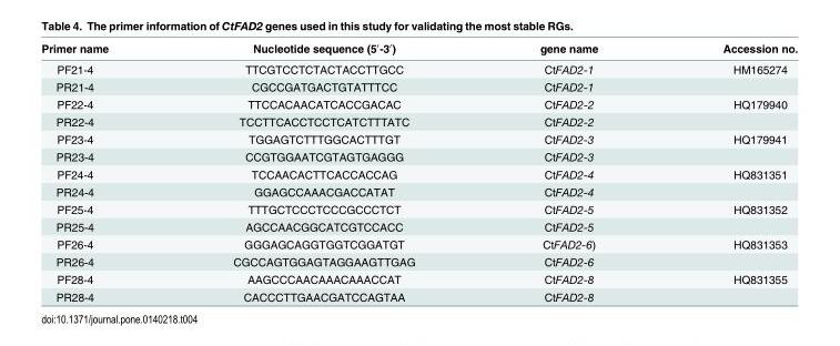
<table><thead><tr><td>Primer name</td><td>Nucleotide sequence (5′-3′)</td><td>gene name</td><td>Accession no.</td></tr></thead><tbody><tr><td>PF21-4</td><td>TTCGTCCTCTACTACCTTGCC</td><td>CtFAD2-1</td><td>HM165274</td></tr><tr><td>PR21-4</td><td>CGCCGATGACTGTATTTCC</td><td>CtFAD2-1</td><td></td></tr><tr><td>PF22-4</td><td>TTCCACAACATCACCGACAC</td><td>CtFAD2-2</td><td>HQ179940</td></tr><tr><td>PR22-4</td><td>TCCTTCACCTCCTCATCTTTATC</td><td>CtFAD2-2</td><td></td></tr><tr><td>PF23-4</td><td>TGGAGTCTTTGGCACTTTGT</td><td>CtFAD2-3</td><td>HQ179941</td></tr><tr><td>PR23-4</td><td>CCGTGGAATCGTAGTGAGGG</td><td>CtFAD2-3</td><td></td></tr><tr><td>PF24-4</td><td>TCCAACACTTCACCACCAG</td><td>CtFAD2-4</td><td>HQ831351</td></tr><tr><td>PR24-4</td><td>GGAGCCAAACGACCATAT</td><td>CtFAD2-4</td><td></td></tr><tr><td>PF25-4</td><td>TTTGCTCCCTCCCGCCCTCT</td><td>CtFAD2-5</td><td>HQ831352</td></tr><tr><td>PR25-4</td><td>AGCCAACGGCATCGTCCACC</td><td>CtFAD2-5</td><td></td></tr><tr><td>PF26-4</td><td>GGGAGCAGGTGGTCGGATGT</td><td>CtFAD2-6)</td><td>HQ831353</td></tr><tr><td>PR26-4</td><td>CGCCAGTGGAGTAGGAAGTTGAG</td><td>CtFAD2-6</td><td></td></tr><tr><td>PF28-4</td><td>AAGCCCAACAAACAAACCAT</td><td>CtFAD2-8</td><td>HQ831355</td></tr><tr><td>PR28-4</td><td>CACCCTTGAACGATCCAGTAA</td><td>CtFAD2-8</td><td></td></tr></tbody></table>